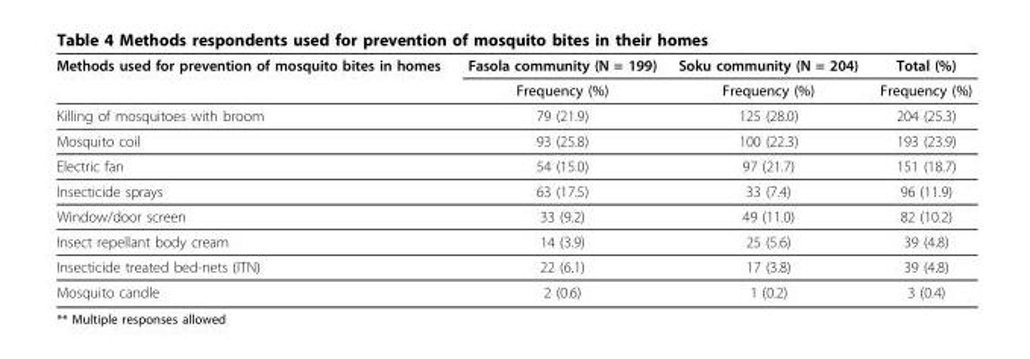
<table><thead><tr><td rowspan="2">Methods used for prevention of mosquito bites in homes</td><td rowspan="2">Fasola community (N = 199) Frequency (%)</td><td rowspan="2">Soku community (N = 204) Frequency (%)</td><td rowspan="2">Total (%) Frequency (%)</td></tr><tr></tr></thead><tbody><tr><td>Killing of mosquitoes with broom</td><td>79 (21.9)</td><td>125 (28.0)</td><td>204 (25.3)</td></tr><tr><td>Mosquito coil</td><td>93 (25.8)</td><td>100 (22.3)</td><td>193 (23.9)</td></tr><tr><td>Electric fan</td><td>54 (15.0)</td><td>97 (21.7)</td><td>151 (18.7)</td></tr><tr><td>Insecticide sprays</td><td>63 (17.5)</td><td>33 (7.4)</td><td>96 (11.9)</td></tr><tr><td>Window/door screen</td><td>33 (9.2)</td><td>49 (11.0)</td><td>82 (10.2)</td></tr><tr><td>Insect repellant body cream</td><td>14 (3.9)</td><td>25 (5.6)</td><td>39 (4.8)</td></tr><tr><td>Insecticide treated bed-nets (ITN)</td><td>22 (6.1)</td><td>17 (3.8)</td><td>39 (4.8)</td></tr><tr><td>Mosquito candle</td><td>2 (0.6)</td><td>1 (0.2)</td><td>3 (0.4)</td></tr></tbody></table>